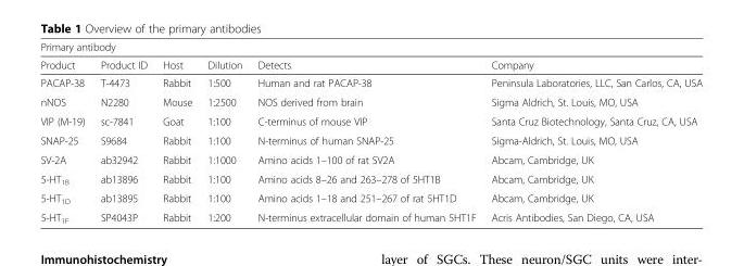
<table><thead><tr><td colspan="6">Primary antibody</td></tr><tr><td>Product</td><td>Product ID</td><td>Host</td><td>Dilution</td><td>Detects</td><td>Company</td></tr></thead><tbody><tr><td>PACAP-38</td><td>T-4473</td><td>Rabbit</td><td>1:500</td><td>Human and rat PACAP-38</td><td>Peninsula Laboratories, LLC, San Carlos, CA, USA</td></tr><tr><td>nNOS</td><td>N2280</td><td>Mouse</td><td>1:2500</td><td>NOS derived from brain</td><td>Sigma Aldrich, St. Louis, MO, USA</td></tr><tr><td>VIP (M-19)</td><td>sc-7841</td><td>Goat</td><td>1:100</td><td>C-terminus of mouse VIP</td><td>Santa Cruz Biotechnology, Santa Cruz, CA, USA</td></tr><tr><td>SNAP-25</td><td>S9684</td><td>Rabbit</td><td>1:100</td><td>N-terminus of human SNAP-25</td><td>Sigma-Aldrich, St. Louis, MO, USA</td></tr><tr><td>SV-2A</td><td>ab32942</td><td>Rabbit</td><td>1:1000</td><td>Amino acids 1–100 of rat SV2A</td><td>Abcam, Cambridge, UK</td></tr><tr><td>5-HT<sub>1B</sub></td><td>ab13896</td><td>Rabbit</td><td>1:100</td><td>Amino acids 8–26 and 263–278 of 5HT1B</td><td>Abcam, Cambridge, UK</td></tr><tr><td>5-HT<sub>1D</sub></td><td>ab13895</td><td>Rabbit</td><td>1:100</td><td>Amino acids 1–18 and 251–267 of rat 5HT1D</td><td>Abcam, Cambridge, UK</td></tr><tr><td>5-HT<sub>1F</sub></td><td>SP4043P</td><td>Rabbit</td><td>1:200</td><td>N-terminus extracellular domain of human 5HT1F</td><td>Acris Antibodies, San Diego, CA, USA</td></tr></tbody></table>